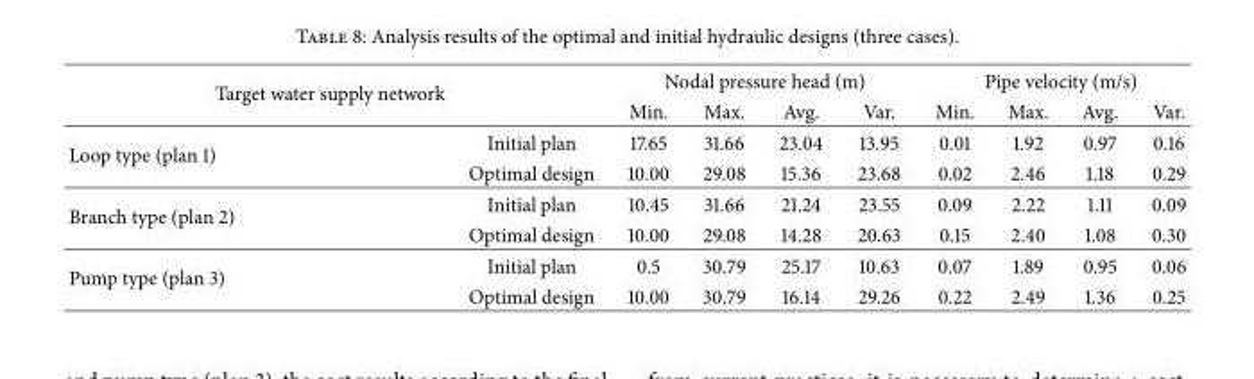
<table><thead><tr><td rowspan="2">Target water supply network</td><td rowspan="2"></td><td colspan="4">Nodal pressure head (m)</td><td colspan="4">Pipe velocity (m/s)</td></tr><tr><td>Min.</td><td>Max.</td><td>Avg.</td><td>Var.</td><td>Min.</td><td>Max.</td><td>Avg.</td><td>Var.</td></tr></thead><tbody><tr><td rowspan="2">Loop type (plan 1)</td><td>Initial plan</td><td>17.65</td><td>31.66</td><td>23.04</td><td>13.95</td><td>0.01</td><td>1.92</td><td>0.97</td><td>0.16</td></tr><tr><td>Optimal design</td><td>10.00</td><td>29.08</td><td>15.36</td><td>23.68</td><td>0.02</td><td>2.46</td><td>1.18</td><td>0.29</td></tr><tr><td rowspan="2">Branch type (plan 2)</td><td>Initial plan</td><td>10.45</td><td>31.66</td><td>21.24</td><td>23.55</td><td>0.09</td><td>2.22</td><td>1.11</td><td>0.09</td></tr><tr><td>Optimal design</td><td>10.00</td><td>29.08</td><td>14.28</td><td>20.63</td><td>0.15</td><td>2.40</td><td>1.08</td><td>0.30</td></tr><tr><td rowspan="2">Pump type (plan 3)</td><td>Initial plan</td><td>0.5</td><td>30.79</td><td>25.17</td><td>10.63</td><td>0.07</td><td>1.89</td><td>0.95</td><td>0.06</td></tr><tr><td>Optimal design</td><td>10.00</td><td>30.79</td><td>16.14</td><td>29.26</td><td>0.22</td><td>2.49</td><td>1.36</td><td>0.25</td></tr></tbody></table>